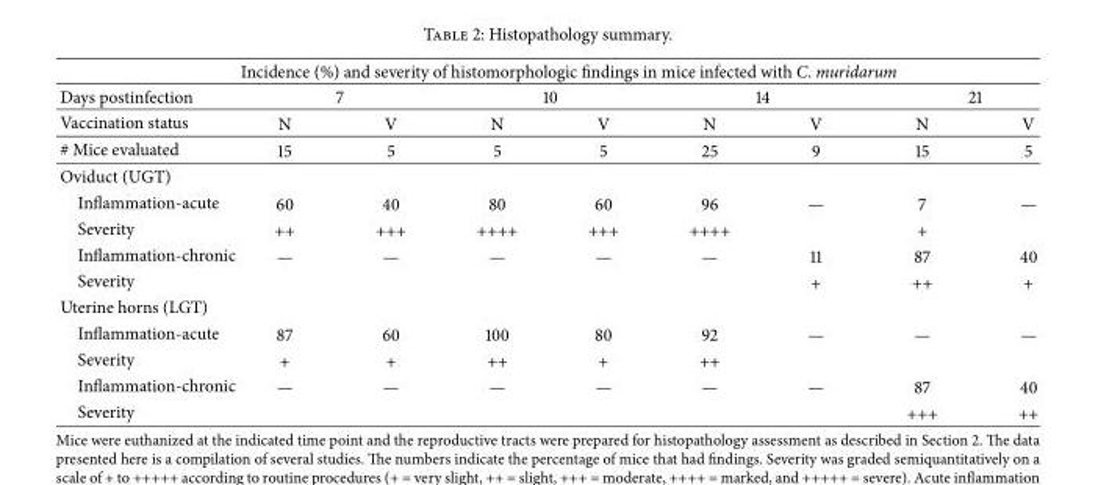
<table><tbody><tr><td colspan="9">Incidence (%) and severity of histomorphologic findings in mice infected with C. muridarum</td></tr><tr><td>Days postinfection</td><td colspan="2">7</td><td colspan="2">10</td><td colspan="2">14</td><td colspan="2">21</td></tr><tr><td>Vaccination status</td><td>N</td><td>V</td><td>N</td><td>V</td><td>N</td><td>V</td><td>N</td><td>V</td></tr><tr><td># Mice evaluated</td><td>15</td><td>5</td><td>5</td><td>5</td><td>25</td><td>9</td><td>15</td><td>5</td></tr><tr><td colspan="9">Oviduct (UGT)</td></tr><tr><td>Inflammation-acute</td><td>60</td><td>40</td><td>80</td><td>60</td><td>96</td><td>—</td><td>7</td><td>—</td></tr><tr><td>Severity</td><td>++</td><td>+++</td><td>++++</td><td>+++</td><td>++++</td><td></td><td>+</td><td></td></tr><tr><td>Inflammation-chronic</td><td>—</td><td>—</td><td>—</td><td>—</td><td>—</td><td>11</td><td>87</td><td>40</td></tr><tr><td>Severity</td><td></td><td></td><td></td><td></td><td></td><td>+</td><td>++</td><td>+</td></tr><tr><td colspan="9">Uterine horns (LGT)</td></tr><tr><td>Inflammation-acute</td><td>87</td><td>60</td><td>100</td><td>80</td><td>92</td><td>—</td><td>—</td><td>—</td></tr><tr><td>Severity</td><td>+</td><td>+</td><td>++</td><td>+</td><td>++</td><td></td><td></td><td></td></tr><tr><td>Inflammation-chronic</td><td>—</td><td>—</td><td>—</td><td>—</td><td>—</td><td>—</td><td>87</td><td>40</td></tr><tr><td>Severity</td><td></td><td></td><td></td><td></td><td></td><td></td><td>+++</td><td>++</td></tr></tbody></table>